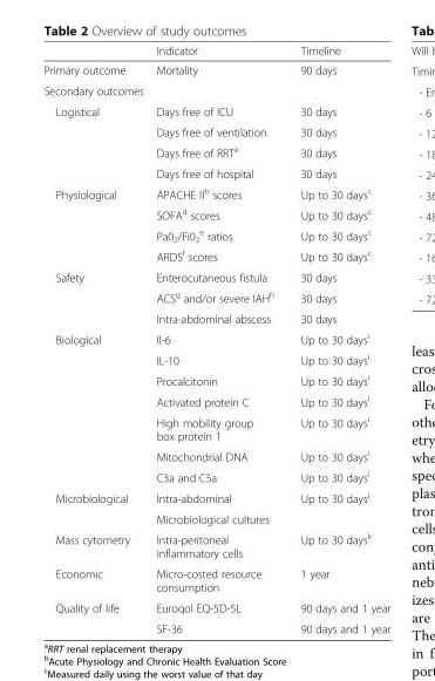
<table><thead><tr><td></td><td>Indicator</td><td>Timeline</td></tr></thead><tbody><tr><td>Primary outcome</td><td>Mortality</td><td>90 days</td></tr><tr><td colspan="3">Secondary outcomes</td></tr><tr><td rowspan="4">Logistical</td><td>Days free of ICU</td><td>30 days</td></tr><tr><td>Days free of ventilation</td><td>30 days</td></tr><tr><td>Days free of RRT<sup>a</sup></td><td>30 days</td></tr><tr><td>Days free of hospital</td><td>30 days</td></tr><tr><td rowspan="4">Physiological</td><td>APACHE II<sup>b</sup> scores</td><td>Up to 30 days<sup>c</sup></td></tr><tr><td>SOFA<sup>d</sup> scores</td><td>Up to 30 days<sup>c</sup></td></tr><tr><td>Pa0<sub>2</sub>/Fi0<sub>2</sub> <sup>e</sup> ratios</td><td>Up to 30 days<sup>c</sup></td></tr><tr><td>ARDS<sup>f</sup> scores</td><td>Up to 30 days<sup>c</sup></td></tr><tr><td rowspan="3">Safety</td><td>Enterocutaneous fistula</td><td>30 days</td></tr><tr><td>ACS<sup>g</sup> and/or severe IAH<sup>h</sup></td><td>30 days</td></tr><tr><td>Intra-abdominal abscess</td><td>30 days</td></tr><tr><td rowspan="7">Biological</td><td>Il-6</td><td>Up to 30 days<sup>i</sup></td></tr><tr><td>IL-10</td><td>Up to 30 days<sup>i</sup></td></tr><tr><td>Procalcitonin</td><td>Up to 30 days<sup>i</sup></td></tr><tr><td>Activated protein C</td><td>Up to 30 days<sup>i</sup></td></tr><tr><td>High mobility group box protein 1</td><td>Up to 30 days<sup>i</sup></td></tr><tr><td>Mitochondrial DNA</td><td>Up to 30 days<sup>i</sup></td></tr><tr><td>C3a and C5a</td><td>Up to 30 days<sup>i</sup></td></tr><tr><td rowspan="2">Microbiological</td><td>Intra-abdominal</td><td>Up to 30 days<sup>j</sup></td></tr><tr><td>Microbiological cultures</td><td></td></tr><tr><td>Mass cytometry</td><td>Intra-peritoneal inflammatory cells</td><td>Up to 30 days<sup>k</sup></td></tr><tr><td>Economic</td><td>Micro-costed resource consumption</td><td>1 year</td></tr><tr><td rowspan="2">Quality of life</td><td>Euroqol EQ-5D-5L</td><td>90 days and 1 year</td></tr><tr><td>SF-36</td><td>90 days and 1 year</td></tr></tbody></table>